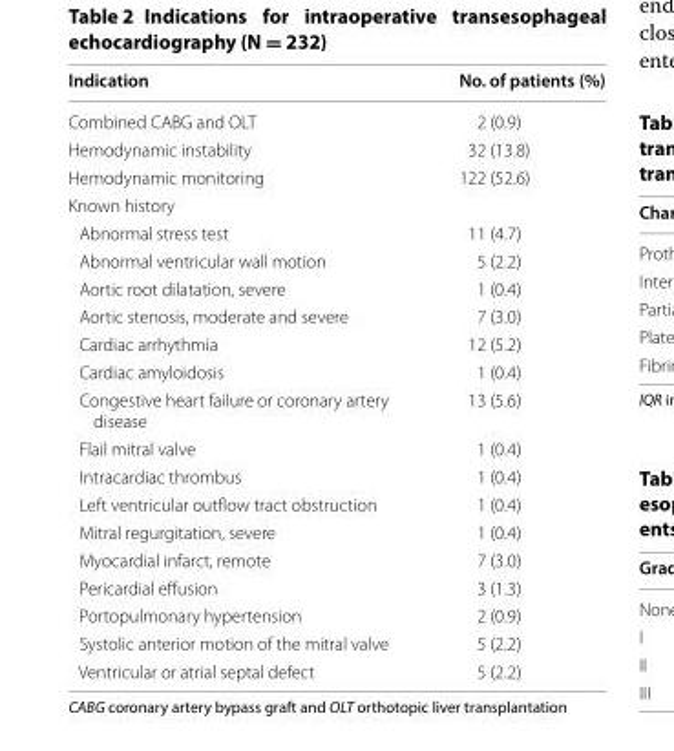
<table><thead><tr><td>Indication</td><td>No. of patients (%)</td></tr></thead><tbody><tr><td>Combined CABG and OLT</td><td>2 (0.9)</td></tr><tr><td>Hemodynamic instability</td><td>32 (13.8)</td></tr><tr><td>Hemodynamic monitoring</td><td>122 (52.6)</td></tr><tr><td colspan="2">Known history</td></tr><tr><td>Abnormal stress test</td><td>11 (4.7)</td></tr><tr><td>Abnormal ventricular wall motion</td><td>5 (2.2)</td></tr><tr><td>Aortic root dilatation, severe</td><td>1 (0.4)</td></tr><tr><td>Aortic stenosis, moderate and severe</td><td>7 (3.0)</td></tr><tr><td>Cardiac arrhythmia</td><td>12 (5.2)</td></tr><tr><td>Cardiac amyloidosis</td><td>1 (0.4)</td></tr><tr><td>Congestive heart failure or coronary artery disease</td><td>13 (5.6)</td></tr><tr><td>Flail mitral valve</td><td>1 (0.4)</td></tr><tr><td>Intracardiac thrombus</td><td>1 (0.4)</td></tr><tr><td>Left ventricular outflow tract obstruction</td><td>1 (0.4)</td></tr><tr><td>Mitral regurgitation, severe</td><td>1 (0.4)</td></tr><tr><td>Myocardial infarct, remote</td><td>7 (3.0)</td></tr><tr><td>Pericardial effusion</td><td>3 (1.3)</td></tr><tr><td>Portopulmonary hypertension</td><td>2 (0.9)</td></tr><tr><td>Systolic anterior motion of the mitral valve</td><td>5 (2.2)</td></tr><tr><td>Ventricular or atrial septal defect</td><td>5 (2.2)</td></tr></tbody></table>